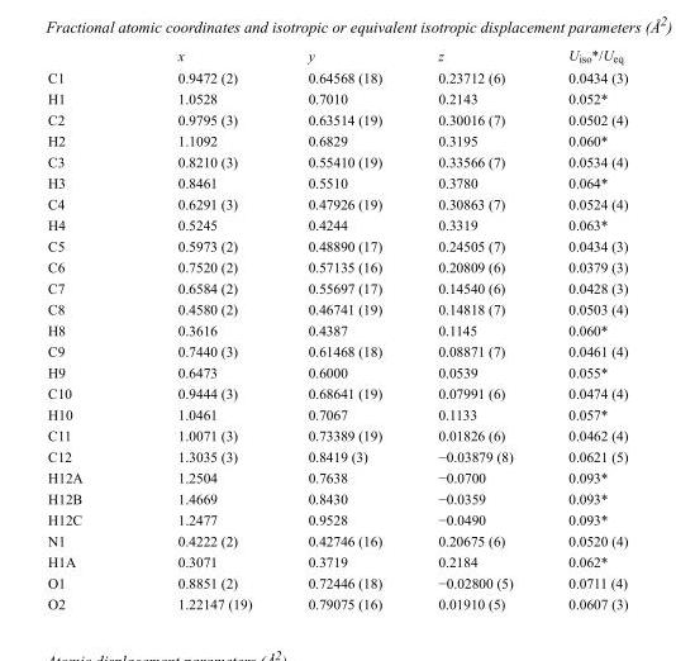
<table><thead><tr><td></td><td>x</td><td>y</td><td>z</td><td>U<sub>iso</sub>*/U<sub>eq</sub></td></tr></thead><tbody><tr><td>C1</td><td>0.9472 (2)</td><td>0.64568 (18)</td><td>0.23712 (6)</td><td>0.0434 (3)</td></tr><tr><td>H1</td><td>1.0528</td><td>0.7010</td><td>0.2143</td><td>0.052*</td></tr><tr><td>C2</td><td>0.9795 (3)</td><td>0.63514 (19)</td><td>0.30016 (7)</td><td>0.0502 (4)</td></tr><tr><td>H2</td><td>1.1092</td><td>0.6829</td><td>0.3195</td><td>0.060*</td></tr><tr><td>C3</td><td>0.8210 (3)</td><td>0.55410 (19)</td><td>0.33566 (7)</td><td>0.0534 (4)</td></tr><tr><td>H3</td><td>0.8461</td><td>0.5510</td><td>0.3780</td><td>0.064*</td></tr><tr><td>C4</td><td>0.6291 (3)</td><td>0.47926 (19)</td><td>0.30863 (7)</td><td>0.0524 (4)</td></tr><tr><td>H4</td><td>0.5245</td><td>0.4244</td><td>0.3319</td><td>0.063*</td></tr><tr><td>C5</td><td>0.5973 (2)</td><td>0.48890 (17)</td><td>0.24505 (7)</td><td>0.0434 (3)</td></tr><tr><td>C6</td><td>0.7520 (2)</td><td>0.57135 (16)</td><td>0.20809 (6)</td><td>0.0379 (3)</td></tr><tr><td>C7</td><td>0.6584 (2)</td><td>0.55697 (17)</td><td>0.14540 (6)</td><td>0.0428 (3)</td></tr><tr><td>C8</td><td>0.4580 (2)</td><td>0.46741 (19)</td><td>0.14818 (7)</td><td>0.0503 (4)</td></tr><tr><td>H8</td><td>0.3616</td><td>0.4387</td><td>0.1145</td><td>0.060*</td></tr><tr><td>C9</td><td>0.7440 (3)</td><td>0.61468 (18)</td><td>0.08871 (7)</td><td>0.0461 (4)</td></tr><tr><td>H9</td><td>0.6473</td><td>0.6000</td><td>0.0539</td><td>0.055*</td></tr><tr><td>C10</td><td>0.9444 (3)</td><td>0.68641 (19)</td><td>0.07991 (6)</td><td>0.0474 (4)</td></tr><tr><td>H10</td><td>1.0461</td><td>0.7067</td><td>0.1133</td><td>0.057*</td></tr><tr><td>C11</td><td>1.0071 (3)</td><td>0.73389 (19)</td><td>0.01826 (6)</td><td>0.0462 (4)</td></tr><tr><td>C12</td><td>1.3035 (3)</td><td>0.8419 (3)</td><td>−0.03879 (8)</td><td>0.0621 (5)</td></tr><tr><td>H12A</td><td>1.2504</td><td>0.7638</td><td>−0.0700</td><td>0.093*</td></tr><tr><td>H12B</td><td>1.4669</td><td>0.8430</td><td>−0.0359</td><td>0.093*</td></tr><tr><td>H12C</td><td>1.2477</td><td>0.9528</td><td>−0.0490</td><td>0.093*</td></tr><tr><td>N1</td><td>0.4222 (2)</td><td>0.42746 (16)</td><td>0.20675 (6)</td><td>0.0520 (4)</td></tr><tr><td>H1A</td><td>0.3071</td><td>0.3719</td><td>0.2184</td><td>0.062*</td></tr><tr><td>O1</td><td>0.8851 (2)</td><td>0.72446 (18)</td><td>−0.02800 (5)</td><td>0.0711 (4)</td></tr><tr><td>O2</td><td>1.22147 (19)</td><td>0.79075 (16)</td><td>0.01910 (5)</td><td>0.0607 (3)</td></tr></tbody></table>